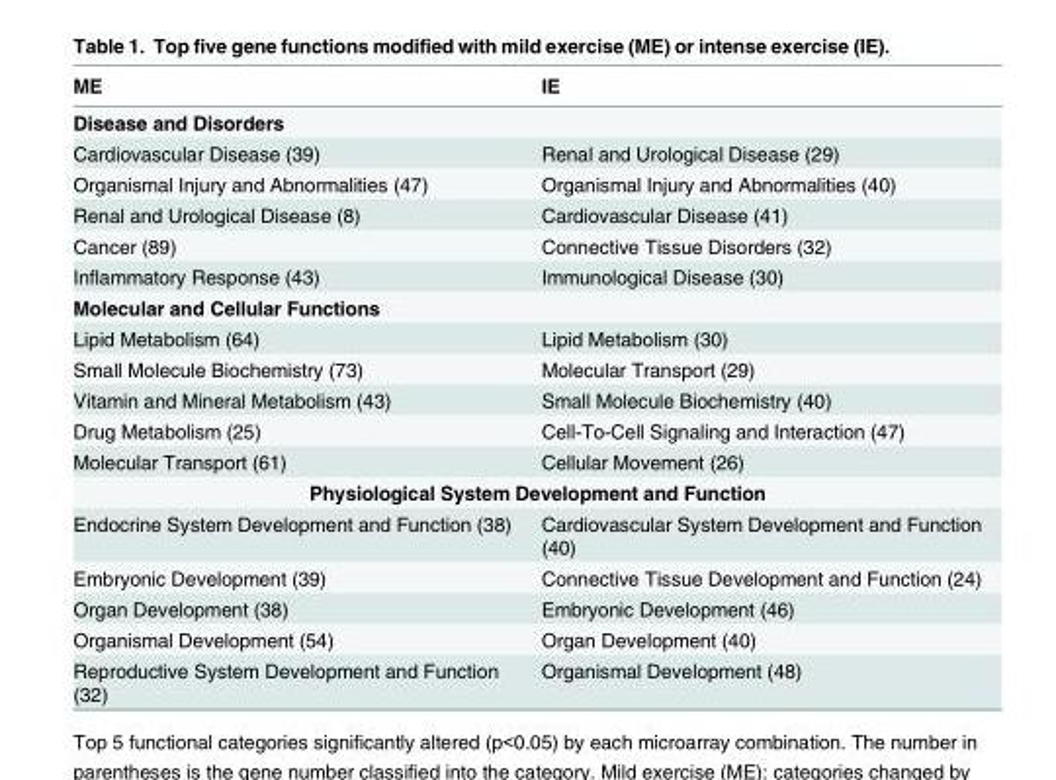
<table><thead><tr><td>ME</td><td>IE</td></tr></thead><tbody><tr><td colspan="2">Disease and Disorders</td></tr><tr><td>Cardiovascular Disease (39)</td><td>Renal and Urological Disease (29)</td></tr><tr><td>Organismal Injury and Abnormalities (47)</td><td>Organismal Injury and Abnormalities (40)</td></tr><tr><td>Renal and Urological Disease (8)</td><td>Cardiovascular Disease (41)</td></tr><tr><td>Cancer (89)</td><td>Connective Tissue Disorders (32)</td></tr><tr><td>Inflammatory Response (43)</td><td>Immunological Disease (30)</td></tr><tr><td colspan="2">Molecular and Cellular Functions</td></tr><tr><td>Lipid Metabolism (64)</td><td>Lipid Metabolism (30)</td></tr><tr><td>Small Molecule Biochemistry (73)</td><td>Molecular Transport (29)</td></tr><tr><td>Vitamin and Mineral Metabolism (43)</td><td>Small Molecule Biochemistry (40)</td></tr><tr><td>Drug Metabolism (25)</td><td>Cell-To-Cell Signaling and Interaction (47)</td></tr><tr><td>Molecular Transport (61)</td><td>Cellular Movement (26)</td></tr><tr><td colspan="2">Physiological System Development and Function</td></tr><tr><td>Endocrine System Development and Function (38)</td><td>Cardiovascular System Development and Function (40)</td></tr><tr><td>Embryonic Development (39)</td><td>Connective Tissue Development and Function (24)</td></tr><tr><td>Organ Development (38)</td><td>Embryonic Development (46)</td></tr><tr><td>Organismal Development (54)</td><td>Organ Development (40)</td></tr><tr><td>Reproductive System Development and Function (32)</td><td>Organismal Development (48)</td></tr></tbody></table>